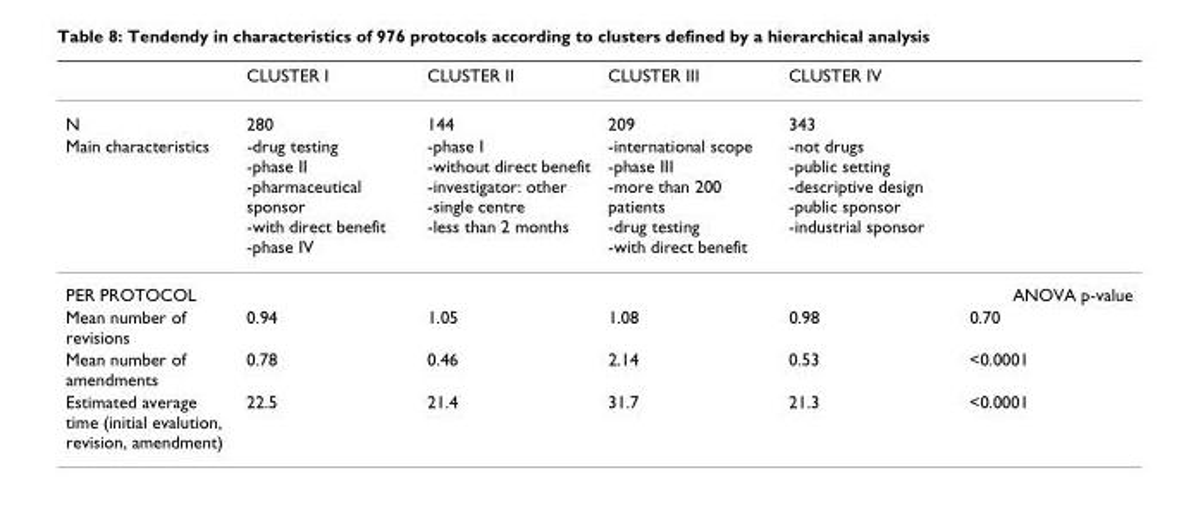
<table><thead><tr><td></td><td>CLUSTER I</td><td>CLUSTER II</td><td>CLUSTER III</td><td>CLUSTER IV</td><td></td></tr></thead><tbody><tr><td>N</td><td>280</td><td>144</td><td>209</td><td>343</td><td></td></tr><tr><td>Main characteristics</td><td>-drug testing -phase II -pharmaceutical sponsor -with direct benefit -phase IV</td><td>-phase I -without direct benefit -investigator: other -single centre -less than 2 months</td><td>-international scope -phase III -more than 200 patients -drug testing -with direct benefit</td><td>-not drugs -public setting -descriptive design -public sponsor -industrial sponsor</td><td></td></tr><tr><td>PER PROTOCOL</td><td></td><td></td><td></td><td></td><td>ANOVA p-value</td></tr><tr><td>Mean number of revisions</td><td>0.94</td><td>1.05</td><td>1.08</td><td>0.98</td><td>0.70</td></tr><tr><td>Mean number of amendments</td><td>0.78</td><td>0.46</td><td>2.14</td><td>0.53</td><td>&lt;0.0001</td></tr><tr><td>Estimated average time (initial evalution, revision, amendment)</td><td>22.5</td><td>21.4</td><td>31.7</td><td>21.3</td><td>&lt;0.0001</td></tr></tbody></table>